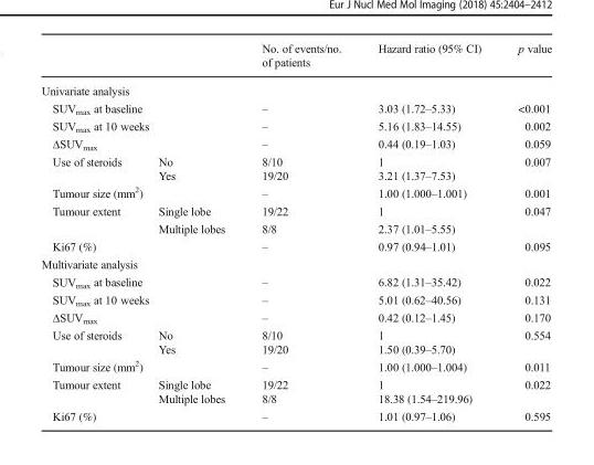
<table><thead><tr><td></td><td></td><td>No. of events/no. of patients</td><td>Hazard ratio (95% CI)</td><td>p value</td></tr></thead><tbody><tr><td colspan="5">Univariate analysis</td></tr><tr><td colspan="2">SUV<sub>max</sub> at baseline</td><td>–</td><td>3.03 (1.72–5.33)</td><td>&lt;0.001</td></tr><tr><td colspan="2">SUV<sub>max</sub> at 10 weeks</td><td>–</td><td>5.16 (1.83–14.55)</td><td>0.002</td></tr><tr><td colspan="2">ΔSUVmax</td><td>–</td><td>0.44 (0.19–1.03)</td><td>0.059</td></tr><tr><td rowspan="2">Use of steroids</td><td>No</td><td>8/10</td><td>1</td><td rowspan="2">0.007</td></tr><tr><td>Yes</td><td>19/20</td><td>3.21 (1.37–7.53)</td></tr><tr><td colspan="2">Tumour size (mm<sup>2</sup>)</td><td>–</td><td>1.00 (1.000–1.001)</td><td>0.001</td></tr><tr><td rowspan="2">Tumour extent</td><td>Single lobe</td><td>19/22</td><td>1</td><td>0.047</td></tr><tr><td>Multiple lobes</td><td>8/8</td><td>2.37 (1.01–5.55)</td><td></td></tr><tr><td colspan="2">Ki67 (%)</td><td>–</td><td>0.97 (0.94–1.01)</td><td>0.095</td></tr><tr><td colspan="5">Multivariate analysis</td></tr><tr><td colspan="2">SUV<sub>max</sub> at baseline</td><td>–</td><td>6.82 (1.31–35.42)</td><td>0.022</td></tr><tr><td colspan="2">SUV<sub>max</sub> at 10 weeks</td><td>–</td><td>5.01 (0.62–40.56)</td><td>0.131</td></tr><tr><td colspan="2">ΔSUVmax</td><td>–</td><td>0.42 (0.12–1.45)</td><td>0.170</td></tr><tr><td rowspan="2">Use of steroids</td><td>No</td><td>8/10</td><td>1</td><td rowspan="2">0.554</td></tr><tr><td>Yes</td><td>19/20</td><td>1.50 (0.39–5.70)</td></tr><tr><td colspan="2">Tumour size (mm<sup>2</sup>)</td><td>–</td><td>1.00 (1.000–1.004)</td><td>0.011</td></tr><tr><td rowspan="2">Tumour extent</td><td>Single lobe</td><td>19/22</td><td>1</td><td rowspan="2">0.022</td></tr><tr><td>Multiple lobes</td><td>8/8</td><td>18.38 (1.54–219.96)</td></tr><tr><td colspan="2">Ki67 (%)</td><td>–</td><td>1.01 (0.97–1.06)</td><td>0.595</td></tr></tbody></table>